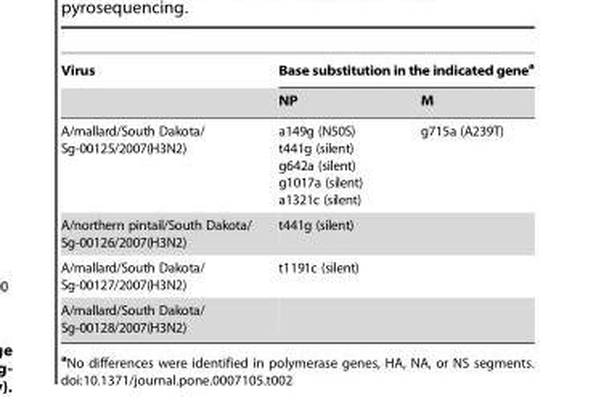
<table><thead><tr><td rowspan="2">Virus</td><td colspan="2">Base substitution in the indicated gene<sup>a</sup></td></tr><tr><td>NP</td><td>M</td></tr></thead><tbody><tr><td>A/mallard/South Dakota/ Sg-00125/2007(H3N2)</td><td>a149g (N50S) t441g (silent) g642a (silent) g1017a (silent) a1321c (silent)</td><td>g715a (A239T)</td></tr><tr><td>A/northern pintail/South Dakota/ Sg-00126/2007(H3N2)</td><td>t441g (silent)</td><td></td></tr><tr><td>A/mallard/South Dakota/ Sg-00127/2007(H3N2)</td><td>t1191c (silent)</td><td></td></tr><tr><td>A/mallard/South Dakota/ Sg-00128/2007(H3N2)</td><td></td><td></td></tr></tbody></table>